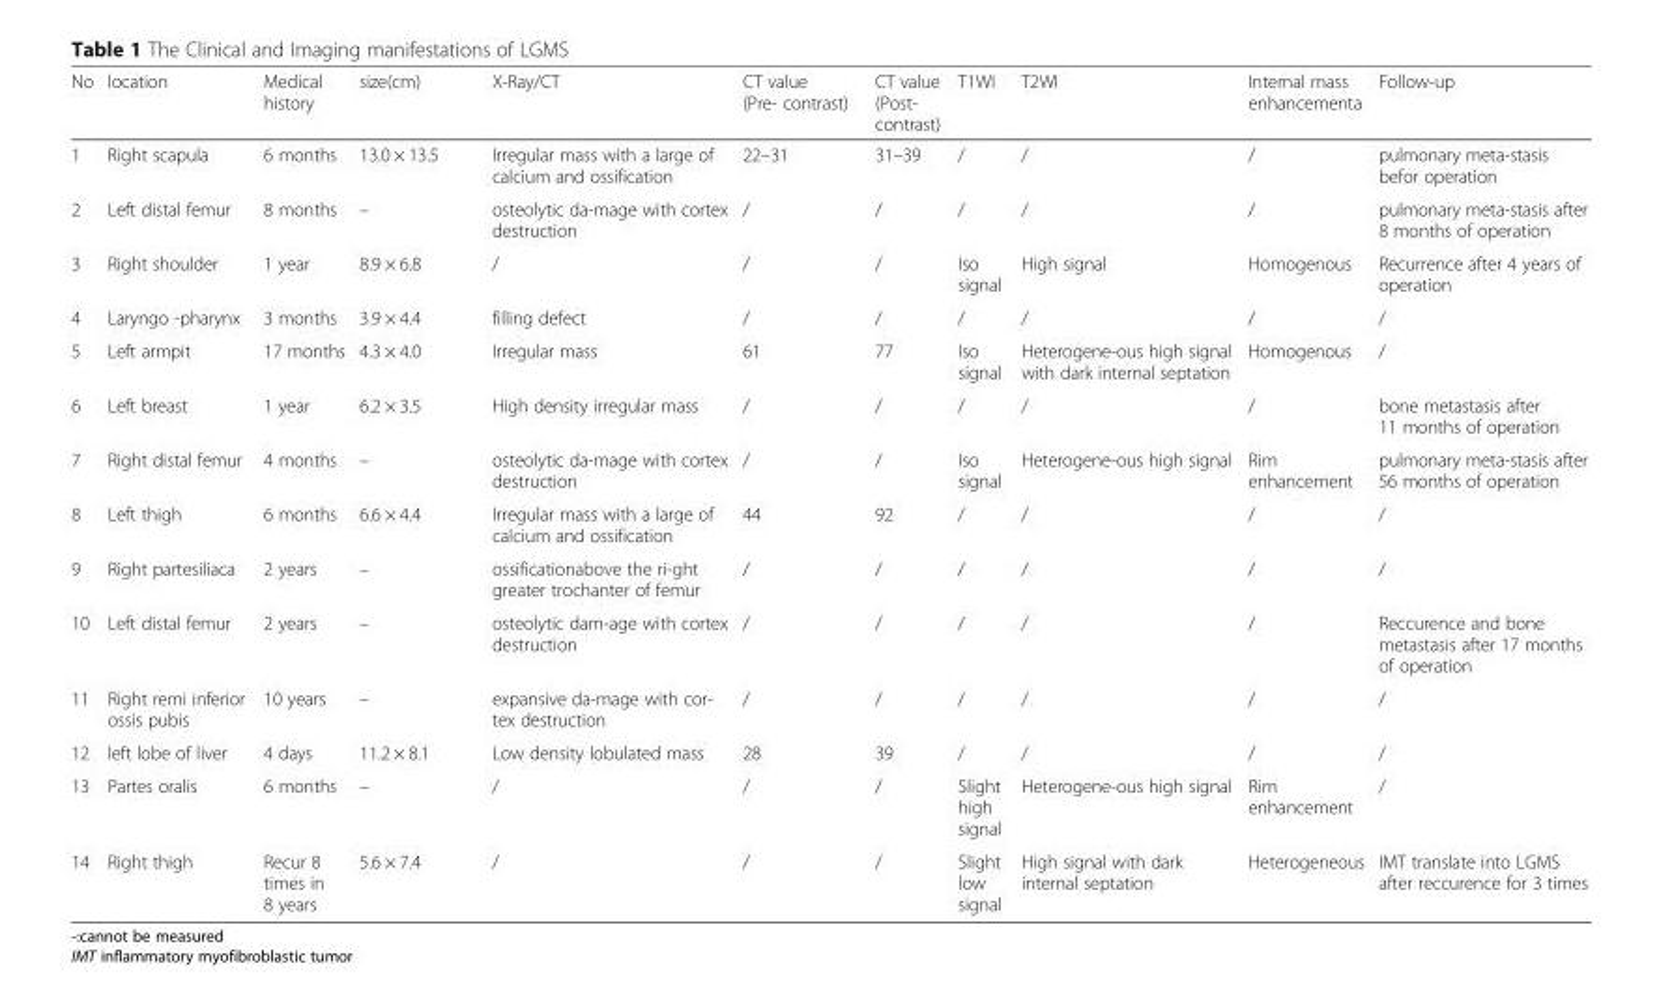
<table><thead><tr><td>No</td><td>location</td><td>Medical history</td><td>size(cm)</td><td>X-Ray/CT</td><td>CT value (Pre- contrast)</td><td>CT value (Post- contrast)</td><td>T1WI</td><td>T2WI</td><td>Internal mass enhancementa</td><td>Follow-up</td></tr></thead><tbody><tr><td>1</td><td>Right scapula</td><td>6 months</td><td>13.0 × 13.5</td><td>Irregular mass with a large of calcium and ossification</td><td>22–31</td><td>31–39</td><td>/</td><td>/</td><td>/</td><td>pulmonary meta-stasis befor operation</td></tr><tr><td>2</td><td>Left distal femur</td><td>8 months</td><td>–</td><td>osteolytic da-mage with cortex destruction</td><td>/</td><td>/</td><td>/</td><td>/</td><td>/</td><td>pulmonary meta-stasis after 8 months of operation</td></tr><tr><td>3</td><td>Right shoulder</td><td>1 year</td><td>8.9 × 6.8</td><td>/</td><td>/</td><td>/</td><td>Iso signal</td><td>High signal</td><td>Homogenous</td><td>Recurrence after 4 years of operation</td></tr><tr><td>4</td><td>Laryngo -pharynx</td><td>3 months</td><td>3.9 × 4.4</td><td>filling defect</td><td>/</td><td>/</td><td>/</td><td>/</td><td>/</td><td>/</td></tr><tr><td>5</td><td>Left armpit</td><td>17 months</td><td>4.3 × 4.0</td><td>Irregular mass</td><td>61</td><td>77</td><td>Iso signal</td><td>Heterogene-ous high signal with dark internal septation</td><td>Homogenous</td><td>/</td></tr><tr><td>6</td><td>Left breast</td><td>1 year</td><td>6.2 × 3.5</td><td>High density irregular mass</td><td>/</td><td>/</td><td>/</td><td>/</td><td>/</td><td>bone metastasis after 11 months of operation</td></tr><tr><td>7</td><td>Right distal femur</td><td>4 months</td><td>–</td><td>osteolytic da-mage with cortex destruction</td><td>/</td><td>/</td><td>Iso signal</td><td>Heterogene-ous high signal</td><td>Rim enhancement</td><td>pulmonary meta-stasis after 56 months of operation</td></tr><tr><td>8</td><td>Left thigh</td><td>6 months</td><td>6.6 × 4.4</td><td>Irregular mass with a large of calcium and ossification</td><td>44</td><td>92</td><td>/</td><td>/</td><td>/</td><td>/</td></tr><tr><td>9</td><td>Right partesiliaca</td><td>2 years</td><td>–</td><td>ossificationabove the ri-ght greater trochanter of femur</td><td>/</td><td>/</td><td>/</td><td>/</td><td>/</td><td>/</td></tr><tr><td>10</td><td>Left distal femur</td><td>2 years</td><td>–</td><td>osteolytic dam-age with cortex destruction</td><td>/</td><td>/</td><td>/</td><td>/</td><td>/</td><td>Reccurence and bone metastasis after 17 months of operation</td></tr><tr><td>11</td><td>Right remi inferior ossis pubis</td><td>10 years</td><td>–</td><td>expansive da-mage with cor- tex destruction</td><td>/</td><td>/</td><td>/</td><td>/</td><td>/</td><td>/</td></tr><tr><td>12</td><td>left lobe of liver</td><td>4 days</td><td>11.2 × 8.1</td><td>Low density lobulated mass</td><td>28</td><td>39</td><td>/</td><td>/</td><td>/</td><td>/</td></tr><tr><td>13</td><td>Partes oralis</td><td>6 months</td><td>–</td><td>/</td><td>/</td><td>/</td><td>Slight high signal</td><td>Heterogene-ous high signal</td><td>Rim enhancement</td><td>/</td></tr><tr><td>14</td><td>Right thigh</td><td>Recur 8 times in 8 years</td><td>5.6 × 7.4</td><td>/</td><td>/</td><td>/</td><td>Slight low signal</td><td>High signal with dark internal septation</td><td>Heterogeneous</td><td>IMT translate into LGMS after reccurence for 3 times</td></tr></tbody></table>